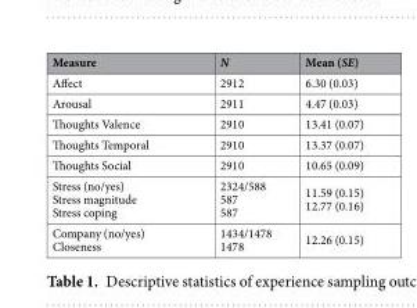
<table><thead><tr><td>Measure</td><td>N</td><td>Mean (SE)</td></tr></thead><tbody><tr><td>Affect</td><td>2912</td><td>6.30 (0.03)</td></tr><tr><td>Arousal</td><td>2911</td><td>4.47 (0.03)</td></tr><tr><td>Thoughts Valence</td><td>2910</td><td>13.41 (0.07)</td></tr><tr><td>Thoughts Temporal</td><td>2910</td><td>13.37 (0.07)</td></tr><tr><td>Thoughts Social</td><td>2910</td><td>10.65 (0.09)</td></tr><tr><td>Stress (no/yes) Stress magnitude Stress coping</td><td>2324/588 587 587</td><td>11.59 (0.15) 12.77 (0.16)</td></tr><tr><td>Company (no/yes) Closeness</td><td>1434/1478 1478</td><td>12.26 (0.15)</td></tr></tbody></table>